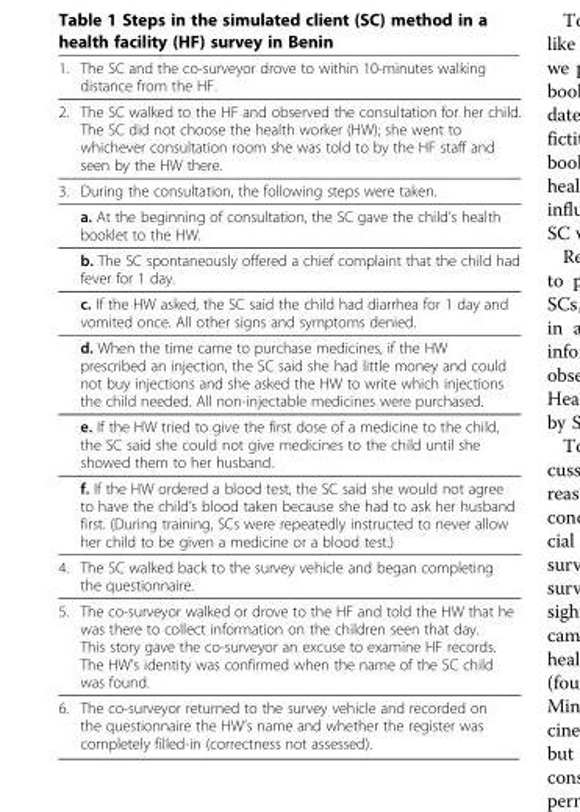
<table><tbody><tr><td>1.</td><td>The SC and the co-surveyor drove to within 10-minutes walking distance from the HF.</td></tr><tr><td>2.</td><td>The SC walked to the HF and observed the consultation for her child. The SC did not choose the health worker (HW); she went to whichever consultation room she was told to by the HF staff and seen by the HW there.</td></tr><tr><td rowspan="7">3.</td><td>During the consultation, the following steps were taken.</td></tr><tr><td>a. At the beginning of consultation, the SC gave the child’s health booklet to the HW.</td></tr><tr><td>b. The SC spontaneously offered a chief complaint that the child had fever for 1 day.</td></tr><tr><td>c. If the HW asked, the SC said the child had diarrhea for 1 day and vomited once. All other signs and symptoms denied.</td></tr><tr><td>d. When the time came to purchase medicines, if the HW prescribed an injection, the SC said she had little money and could not buy injections and she asked the HW to write which injections the child needed. All non-injectable medicines were purchased.</td></tr><tr><td>e. If the HW tried to give the first dose of a medicine to the child, the SC said she could not give medicines to the child until she showed them to her husband.</td></tr><tr><td>f. If the HW ordered a blood test, the SC said she would not agree to have the child’s blood taken because she had to ask her husband first. (During training, SCs were repeatedly instructed to never allow her child to be given a medicine or a blood test.)</td></tr><tr><td>4.</td><td>The SC walked back to the survey vehicle and began completing the questionnaire.</td></tr><tr><td>5.</td><td>The co-surveyor walked or drove to the HF and told the HW that he was there to collect information on the children seen that day. This story gave the co-surveyor an excuse to examine HF records. The HW’s identity was confirmed when the name of the SC child was found.</td></tr><tr><td>6.</td><td>The co-surveyor returned to the survey vehicle and recorded on the questionnaire the HW’s name and whether the register was completely filled-in (correctness not assessed).</td></tr></tbody></table>